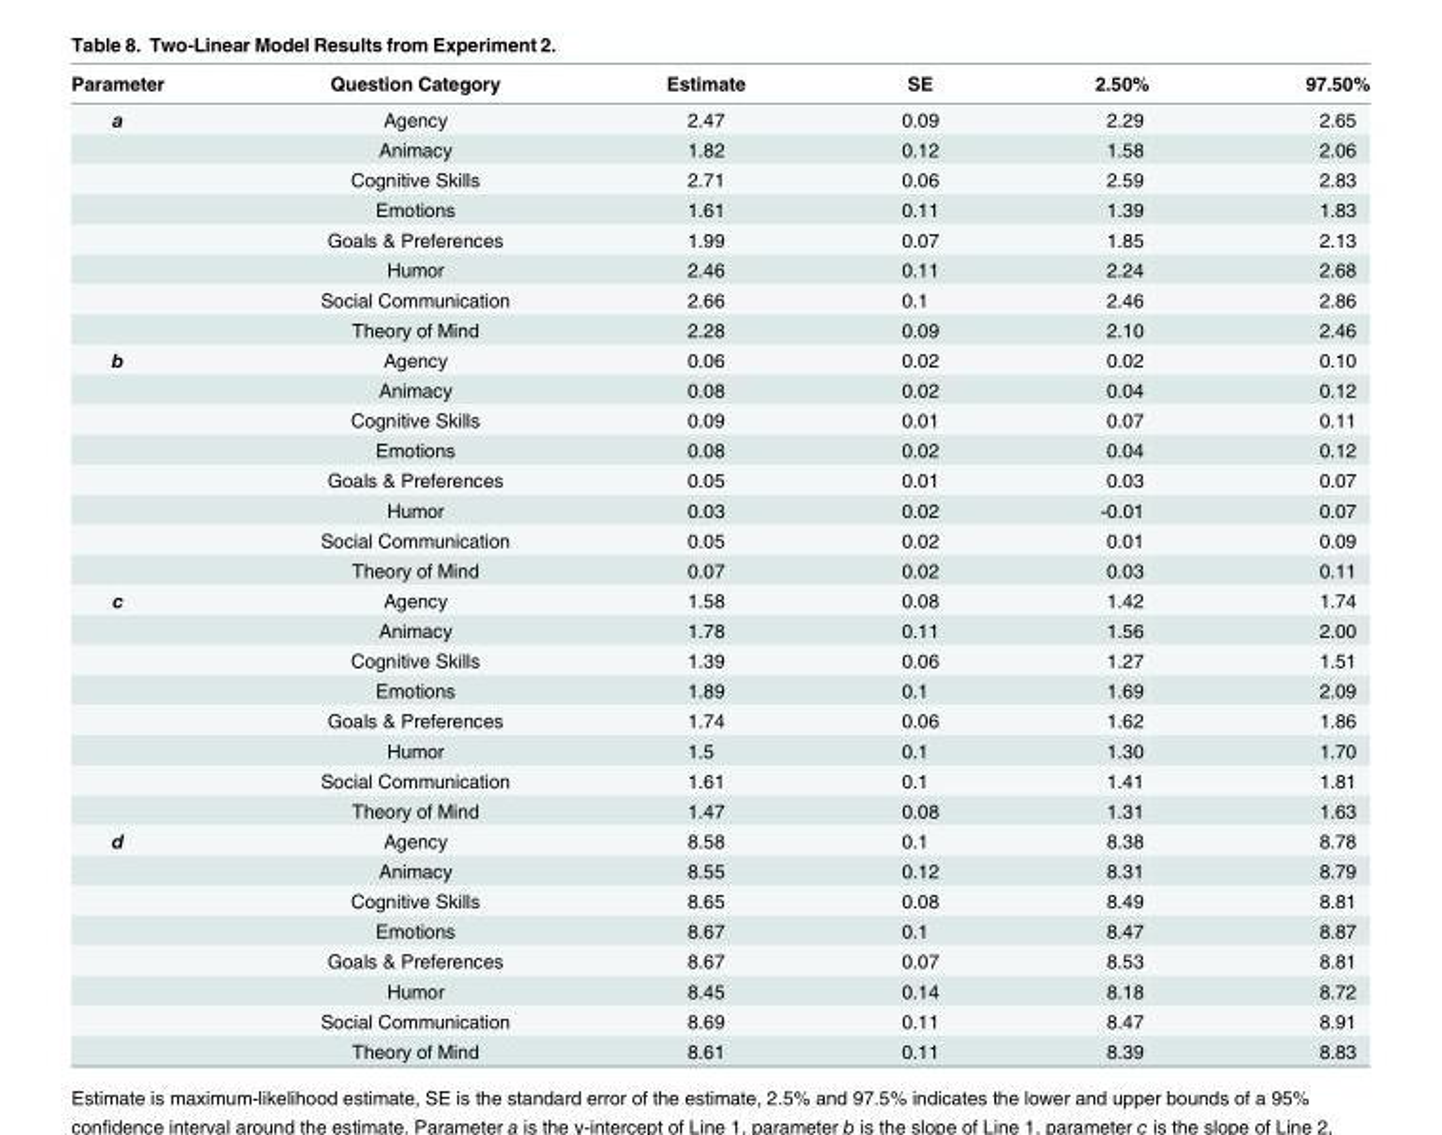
<table><thead><tr><td>Parameter</td><td>Question Category</td><td>Estimate</td><td>SE</td><td>2.50%</td><td>97.50%</td></tr></thead><tbody><tr><td rowspan="8">a</td><td>Agency</td><td>2.47</td><td>0.09</td><td>2.29</td><td>2.65</td></tr><tr><td>Animacy</td><td>1.82</td><td>0.12</td><td>1.58</td><td>2.06</td></tr><tr><td>Cognitive Skills</td><td>2.71</td><td>0.06</td><td>2.59</td><td>2.83</td></tr><tr><td>Emotions</td><td>1.61</td><td>0.11</td><td>1.39</td><td>1.83</td></tr><tr><td>Goals &amp; Preferences</td><td>1.99</td><td>0.07</td><td>1.85</td><td>2.13</td></tr><tr><td>Humor</td><td>2.46</td><td>0.11</td><td>2.24</td><td>2.68</td></tr><tr><td>Social Communication</td><td>2.66</td><td>0.1</td><td>2.46</td><td>2.86</td></tr><tr><td>Theory of Mind</td><td>2.28</td><td>0.09</td><td>2.10</td><td>2.46</td></tr><tr><td rowspan="8">b</td><td>Agency</td><td>0.06</td><td>0.02</td><td>0.02</td><td>0.10</td></tr><tr><td>Animacy</td><td>0.08</td><td>0.02</td><td>0.04</td><td>0.12</td></tr><tr><td>Cognitive Skills</td><td>0.09</td><td>0.01</td><td>0.07</td><td>0.11</td></tr><tr><td>Emotions</td><td>0.08</td><td>0.02</td><td>0.04</td><td>0.12</td></tr><tr><td>Goals &amp; Preferences</td><td>0.05</td><td>0.01</td><td>0.03</td><td>0.07</td></tr><tr><td>Humor</td><td>0.03</td><td>0.02</td><td>-0.01</td><td>0.07</td></tr><tr><td>Social Communication</td><td>0.05</td><td>0.02</td><td>0.01</td><td>0.09</td></tr><tr><td>Theory of Mind</td><td>0.07</td><td>0.02</td><td>0.03</td><td>0.11</td></tr><tr><td rowspan="8">c</td><td>Agency</td><td>1.58</td><td>0.08</td><td>1.42</td><td>1.74</td></tr><tr><td>Animacy</td><td>1.78</td><td>0.11</td><td>1.56</td><td>2.00</td></tr><tr><td>Cognitive Skills</td><td>1.39</td><td>0.06</td><td>1.27</td><td>1.51</td></tr><tr><td>Emotions</td><td>1.89</td><td>0.1</td><td>1.69</td><td>2.09</td></tr><tr><td>Goals &amp; Preferences</td><td>1.74</td><td>0.06</td><td>1.62</td><td>1.86</td></tr><tr><td>Humor</td><td>1.5</td><td>0.1</td><td>1.30</td><td>1.70</td></tr><tr><td>Social Communication</td><td>1.61</td><td>0.1</td><td>1.41</td><td>1.81</td></tr><tr><td>Theory of Mind</td><td>1.47</td><td>0.08</td><td>1.31</td><td>1.63</td></tr><tr><td rowspan="8">d</td><td>Agency</td><td>8.58</td><td>0.1</td><td>8.38</td><td>8.78</td></tr><tr><td>Animacy</td><td>8.55</td><td>0.12</td><td>8.31</td><td>8.79</td></tr><tr><td>Cognitive Skills</td><td>8.65</td><td>0.08</td><td>8.49</td><td>8.81</td></tr><tr><td>Emotions</td><td>8.67</td><td>0.1</td><td>8.47</td><td>8.87</td></tr><tr><td>Goals &amp; Preferences</td><td>8.67</td><td>0.07</td><td>8.53</td><td>8.81</td></tr><tr><td>Humor</td><td>8.45</td><td>0.14</td><td>8.18</td><td>8.72</td></tr><tr><td>Social Communication</td><td>8.69</td><td>0.11</td><td>8.47</td><td>8.91</td></tr><tr><td>Theory of Mind</td><td>8.61</td><td>0.11</td><td>8.39</td><td>8.83</td></tr></tbody></table>